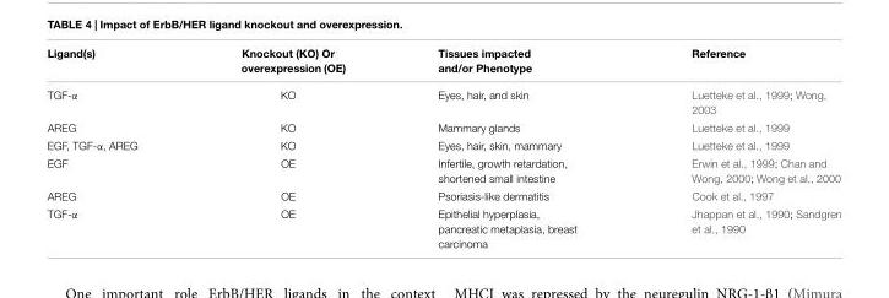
<table><thead><tr><td>Ligand(s)</td><td>Knockout (KO) Or overexpression (OE)</td><td>Tissues impacted and/or Phenotype</td><td>Reference</td></tr></thead><tbody><tr><td>TGF-α</td><td>KO</td><td>Eyes, hair, and skin</td><td>Luetteke et al., 1999; Wong, 2003</td></tr><tr><td>AREG</td><td>KO</td><td>Mammary glands</td><td>Luetteke et al., 1999</td></tr><tr><td>EGF, TGF-α, AREG</td><td>KO</td><td>Eyes, hair, skin, mammary</td><td>Luetteke et al., 1999</td></tr><tr><td>EGF</td><td>OE</td><td>Infertile, growth retardation, shortened small intestine</td><td>Erwin et al., 1999; Chan and Wong, 2000; Wong et al., 2000</td></tr><tr><td>AREG</td><td>OE</td><td>Psoriasis-like dermatitis</td><td>Cook et al., 1997</td></tr><tr><td>TGF-α</td><td>OE</td><td>Epithelial hyperplasia, pancreatic metaplasia, breast carcinoma</td><td>Jhappan et al., 1990; Sandgren et al., 1990</td></tr></tbody></table>